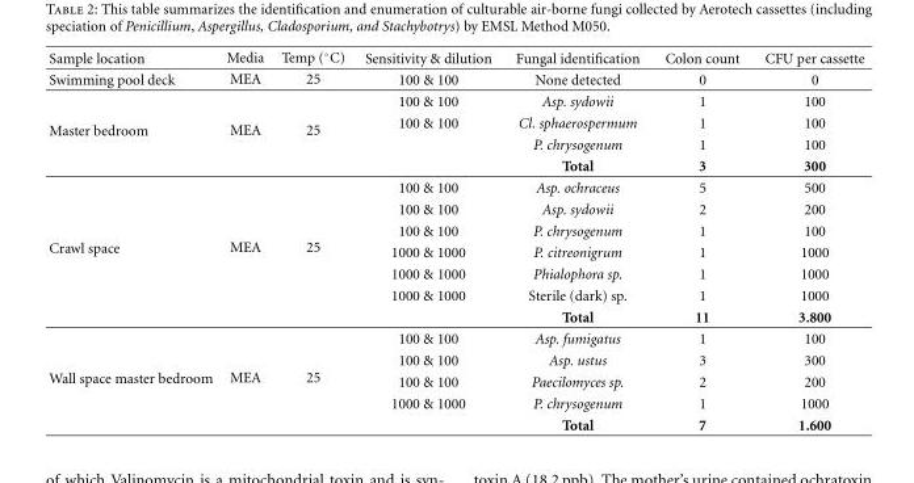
<table><thead><tr><td>Sample location</td><td>Media</td><td>Temp (◦C)</td><td>Sensitivity &amp; dilution</td><td>Fungal identification</td><td>Colon count</td><td>CFU per cassette</td></tr></thead><tbody><tr><td>Swimming pool deck</td><td>MEA</td><td>25</td><td>100 &amp; 100</td><td>None detected</td><td>0</td><td>0</td></tr><tr><td rowspan="4">Master bedroom</td><td rowspan="4">MEA</td><td rowspan="4">25</td><td>100 &amp; 100</td><td>Asp. sydowii</td><td>1</td><td>100</td></tr><tr><td>100 &amp; 100</td><td>Cl. sphaerospermum</td><td>1</td><td>100</td></tr><tr><td></td><td>P. chrysogenum</td><td>1</td><td>100</td></tr><tr><td></td><td>Total</td><td>3</td><td>300</td></tr><tr><td rowspan="7">Crawl space</td><td rowspan="7">MEA</td><td rowspan="7">25</td><td>100 &amp; 100</td><td>Asp. ochraceus</td><td>5</td><td>500</td></tr><tr><td>100 &amp; 100</td><td>Asp. sydowii</td><td>2</td><td>200</td></tr><tr><td>100 &amp; 100</td><td>P. chrysogenum</td><td>1</td><td>100</td></tr><tr><td>1000 &amp; 1000</td><td>P. citreonigrum</td><td>1</td><td>1000</td></tr><tr><td>1000 &amp; 1000</td><td>Phialophora sp.</td><td>1</td><td>1000</td></tr><tr><td>1000 &amp; 1000</td><td>Sterile (dark) sp.</td><td>1</td><td>1000</td></tr><tr><td></td><td>Total</td><td>11</td><td>3.800</td></tr><tr><td rowspan="5">Wall space master bedroom</td><td rowspan="5">MEA</td><td rowspan="5">25</td><td>100 &amp; 100</td><td>Asp. fumigatus</td><td>1</td><td>100</td></tr><tr><td>100 &amp; 100</td><td>Asp. ustus</td><td>3</td><td>300</td></tr><tr><td>100 &amp; 100</td><td>Paecilomyces sp.</td><td>2</td><td>200</td></tr><tr><td>1000 &amp; 1000</td><td>P. chrysogenum</td><td>1</td><td>1000</td></tr><tr><td></td><td>Total</td><td>7</td><td>1.600</td></tr></tbody></table>